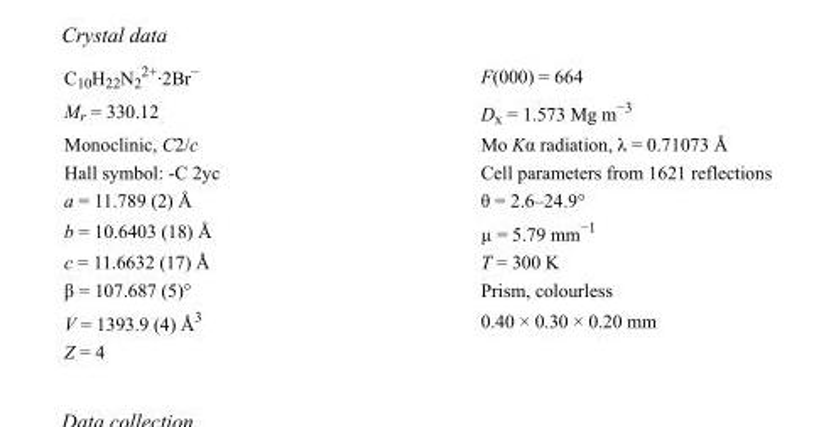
<table><tbody><tr><td>C<sub>10</sub>H<sub>22</sub>N<sub>2</sub> <sup>2+</sup>·2Br<sup>−</sup></td><td>F(000) = 664</td></tr><tr><td>M<sub>r</sub> = 330.12</td><td>D<sub>x</sub> = 1.573 Mg m<sup>−3</sup></td></tr><tr><td>Monoclinic, C2/c</td><td>Mo Kα radiation, λ = 0.71073 Å</td></tr><tr><td>Hall symbol: -C 2yc</td><td>Cell parameters from 1621 reflections</td></tr><tr><td>a = 11.789 (2) Å</td><td>θ = 2.6–24.9°</td></tr><tr><td>b = 10.6403 (18) Å</td><td>µ = 5.79 mm<sup>−1</sup></td></tr><tr><td>c = 11.6632 (17) Å</td><td>T = 300 K</td></tr><tr><td>β = 107.687 (5)°</td><td>Prism, colourless</td></tr><tr><td>V = 1393.9 (4) Å<sup>3</sup></td><td>0.40 × 0.30 × 0.20 mm</td></tr><tr><td>Z = 4</td><td></td></tr></tbody></table>